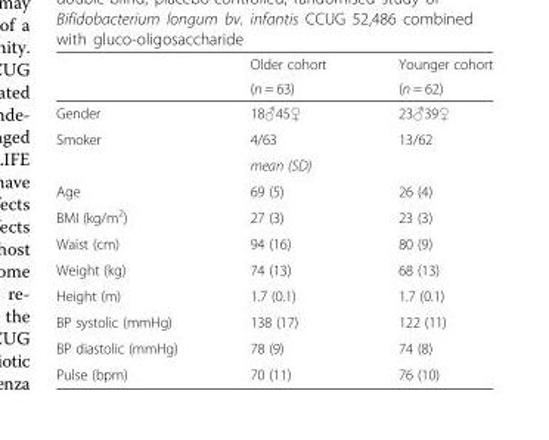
<table><thead><tr><td rowspan="2"></td><td rowspan="2">Older cohort (n = 63)</td><td rowspan="2">Younger cohort (n = 62)</td></tr><tr></tr></thead><tbody><tr><td>Gender</td><td>18♂45♀</td><td>23♂39♀</td></tr><tr><td rowspan="2">Smoker</td><td>4/63</td><td>13/62</td></tr><tr><td colspan="2">mean (SD)</td></tr><tr><td>Age</td><td>69 (5)</td><td>26 (4)</td></tr><tr><td>BMI (kg/m<sup>2</sup>)</td><td>27 (3)</td><td>23 (3)</td></tr><tr><td>Waist (cm)</td><td>94 (16)</td><td>80 (9)</td></tr><tr><td>Weight (kg)</td><td>74 (13)</td><td>68 (13)</td></tr><tr><td>Height (m)</td><td>1.7 (0.1)</td><td>1.7 (0.1)</td></tr><tr><td>BP systolic (mmHg)</td><td>138 (17)</td><td>122 (11)</td></tr><tr><td>BP diastolic (mmHg)</td><td>78 (9)</td><td>74 (8)</td></tr><tr><td>Pulse (bpm)</td><td>70 (11)</td><td>76 (10)</td></tr></tbody></table>